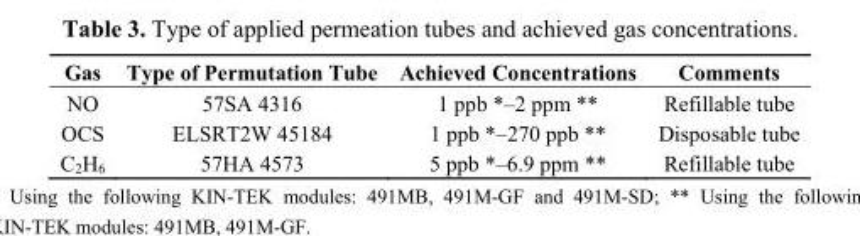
<table><thead><tr><td>Gas</td><td>Type of Permutation Tube</td><td>Achieved Concentrations</td><td>Comments</td></tr></thead><tbody><tr><td>NO</td><td>57SA 4316</td><td>1 ppb *–2 ppm **</td><td>Refillable tube</td></tr><tr><td>OCS</td><td>ELSRT2W 45184</td><td>1 ppb *–270 ppb **</td><td>Disposable tube</td></tr><tr><td>C<sub>2</sub>H<sub>6</sub></td><td>57HA 4573</td><td>5 ppb *–6.9 ppm **</td><td>Refillable tube</td></tr></tbody></table>